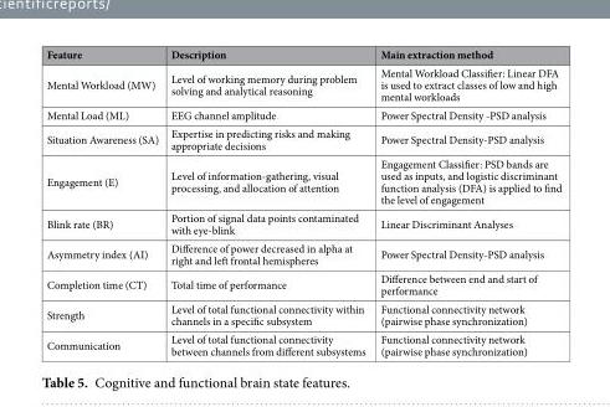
<table><thead><tr><td>Feature</td><td>Description</td><td>Main extraction method</td></tr></thead><tbody><tr><td>Mental Workload (MW)</td><td>Level of working memory during problem solving and analytical reasoning</td><td>Mental Workload Classifier: Linear DFA is used to extract classes of low and high mental workloads</td></tr><tr><td>Mental Load (ML)</td><td>EEG channel amplitude</td><td>Power Spectral Density -PSD analysis</td></tr><tr><td>Situation Awareness (SA)</td><td>Expertise in predicting risks and making appropriate decisions</td><td>Power Spectral Density-PSD analysis</td></tr><tr><td>Engagement (E)</td><td>Level of information-gathering, visual processing, and allocation of attention</td><td>Engagement Classifier: PSD bands are used as inputs, and logistic discriminant function analysis (DFA) is applied to find the level of engagement</td></tr><tr><td>Blink rate (BR)</td><td>Portion of signal data points contaminated with eye-blink</td><td>Linear Discriminant Analyses</td></tr><tr><td>Asymmetry index (AI)</td><td>Difference of power decreased in alpha at right and left frontal hemispheres</td><td>Power Spectral Density-PSD analysis</td></tr><tr><td>Completion time (CT)</td><td>Total time of performance</td><td>Difference between end and start of performance</td></tr><tr><td>Strength</td><td>Level of total functional connectivity within channels in a specific subsystem</td><td>Functional connectivity network (pairwise phase synchronization)</td></tr><tr><td>Communication</td><td>Level of total functional connectivity between channels from different subsystems</td><td>Functional connectivity network (pairwise phase synchronization)</td></tr></tbody></table>